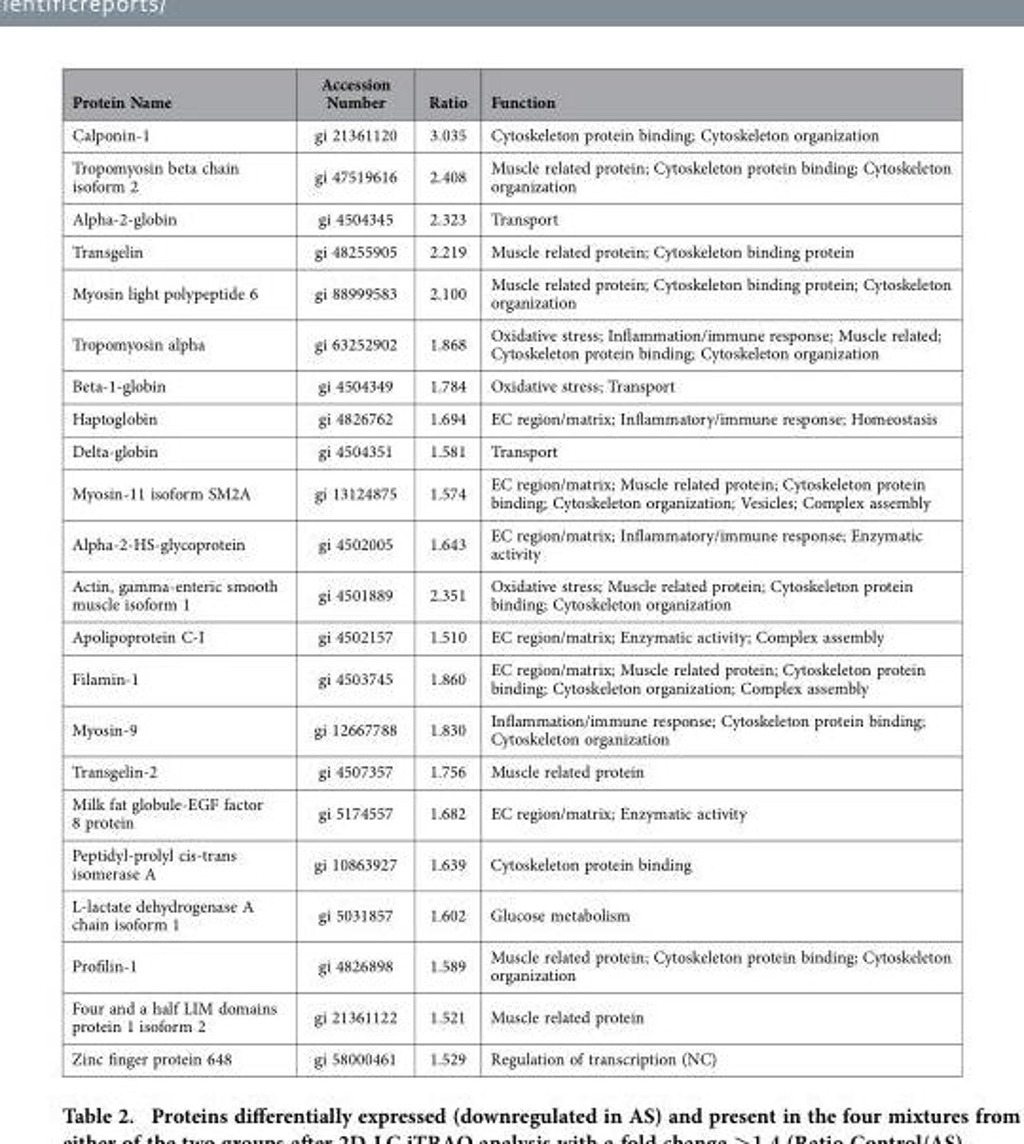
<table><thead><tr><td>Protein Name</td><td>Accession Number</td><td>Ratio</td><td>Function</td></tr></thead><tbody><tr><td>Calponin-1</td><td>gi 21361120</td><td>3.035</td><td>Cytoskeleton protein binding; Cytoskeleton organization</td></tr><tr><td>Tropomyosin beta chain isoform 2</td><td>gi 47519616</td><td>2.408</td><td>Muscle related protein; Cytoskeleton protein binding; Cytoskeleton organization</td></tr><tr><td>Alpha-2-globin</td><td>gi 4504345</td><td>2.323</td><td>Transport</td></tr><tr><td>Transgelin</td><td>gi 48255905</td><td>2.219</td><td>Muscle related protein; Cytoskeleton binding protein</td></tr><tr><td>Myosin light polypeptide 6</td><td>gi 88999583</td><td>2.100</td><td>Muscle related protein; Cytoskeleton binding protein; Cytoskeleton organization</td></tr><tr><td>Tropomyosin alpha</td><td>gi 63252902</td><td>1.868</td><td>Oxidative stress; Inflammation/immune response; Muscle related; Cytoskeleton protein binding; Cytoskeleton organization</td></tr><tr><td>Beta-1-globin</td><td>gi 4504349</td><td>1.784</td><td>Oxidative stress; Transport</td></tr><tr><td>Haptoglobin</td><td>gi 4826762</td><td>1.694</td><td>EC region/matrix; Inflammatory/immune response; Homeostasis</td></tr><tr><td>Delta-globin</td><td>gi 4504351</td><td>1.581</td><td>Transport</td></tr><tr><td>Myosin-11 isoform SM2A</td><td>gi 13124875</td><td>1.574</td><td>EC region/matrix; Muscle related protein; Cytoskeleton protein binding; Cytoskeleton organization; Vesicles; Complex assembly</td></tr><tr><td>Alpha-2-HS-glycoprotein</td><td>gi 4502005</td><td>1.643</td><td>EC region/matrix; Inflammatory/immune response; Enzymatic activity</td></tr><tr><td>Actin, gamma-enteric smooth muscle isoform 1</td><td>gi 4501889</td><td>2.351</td><td>Oxidative stress; Muscle related protein; Cytoskeleton protein binding; Cytoskeleton organization</td></tr><tr><td>Apolipoprotein C-I</td><td>gi 4502157</td><td>1.510</td><td>EC region/matrix; Enzymatic activity; Complex assembly</td></tr><tr><td>Filamin-1</td><td>gi 4503745</td><td>1.860</td><td>EC region/matrix; Muscle related protein; Cytoskeleton protein binding; Cytoskeleton organization; Complex assembly</td></tr><tr><td>Myosin-9</td><td>gi 12667788</td><td>1.830</td><td>Inflammation/immune response; Cytoskeleton protein binding; Cytoskeleton organization</td></tr><tr><td>Transgelin-2</td><td>gi 4507357</td><td>1.756</td><td>Muscle related protein</td></tr><tr><td>Milk fat globule-EGF factor 8 protein</td><td>gi 5174557</td><td>1.682</td><td>EC region/matrix; Enzymatic activity</td></tr><tr><td>Peptidyl-prolyl cis-trans isomerase A</td><td>gi 10863927</td><td>1.639</td><td>Cytoskeleton protein binding</td></tr><tr><td>L-lactate dehydrogenase A chain isoform 1</td><td>gi 5031857</td><td>1.602</td><td>Glucose metabolism</td></tr><tr><td>Profilin-1</td><td>gi 4826898</td><td>1.589</td><td>Muscle related protein; Cytoskeleton protein binding; Cytoskeleton organization</td></tr><tr><td>Four and a half LIM domains protein 1 isoform 2</td><td>gi 21361122</td><td>1.521</td><td>Muscle related protein</td></tr><tr><td>Zinc finger protein 648</td><td>gi 58000461</td><td>1.529</td><td>Regulation of transcription (NC)</td></tr></tbody></table>